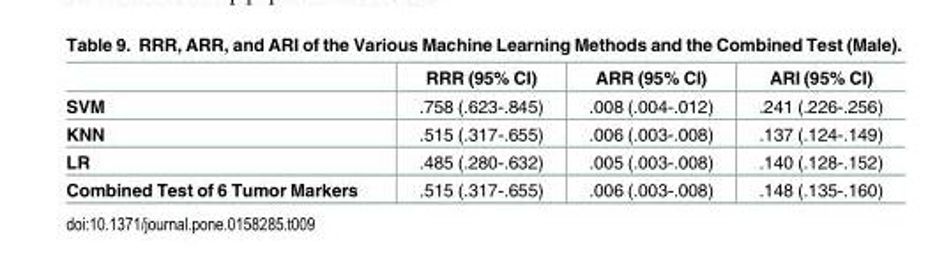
<table><thead><tr><td></td><td>RRR (95% CI)</td><td>ARR (95% CI)</td><td>ARI (95% CI)</td></tr></thead><tbody><tr><td>SVM</td><td>.758 (.623-.845)</td><td>.008 (.004-.012)</td><td>.241 (.226-.256)</td></tr><tr><td>KNN</td><td>.515 (.317-.655)</td><td>.006 (.003-.008)</td><td>.137 (.124-.149)</td></tr><tr><td>LR</td><td>.485 (.280-.632)</td><td>.005 (.003-.008)</td><td>.140 (.128-.152)</td></tr><tr><td>Combined Test of 6 Tumor Markers</td><td>.515 (.317-.655)</td><td>.006 (.003-.008)</td><td>.148 (.135-.160)</td></tr></tbody></table>